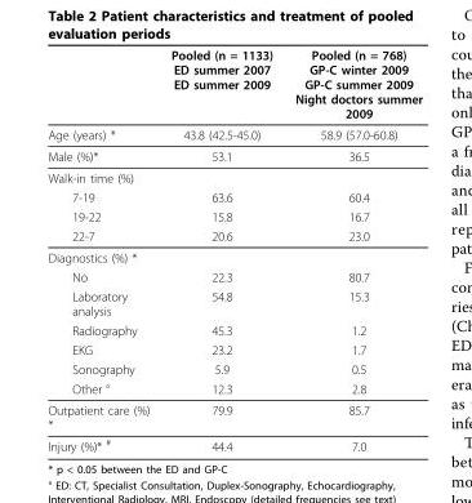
<table><thead><tr><td></td><td>Pooled (n = 1133) ED summer 2007 ED summer 2009</td><td>Pooled (n = 768) GP-C winter 2009 GP-C summer 2009 Night doctors summer 2009</td></tr></thead><tbody><tr><td>Age (years) *</td><td>43.8 (42.5-45.0)</td><td>58.9 (57.0-60.8)</td></tr><tr><td>Male (%)*</td><td>53.1</td><td>36.5</td></tr><tr><td colspan="3">Walk-in time (%)</td></tr><tr><td>7-19</td><td>63.6</td><td>60.4</td></tr><tr><td>19-22</td><td>15.8</td><td>16.7</td></tr><tr><td>22-7</td><td>20.6</td><td>23.0</td></tr><tr><td colspan="3">Diagnostics (%) *</td></tr><tr><td>No</td><td>22.3</td><td>80.7</td></tr><tr><td>Laboratory analysis</td><td>54.8</td><td>15.3</td></tr><tr><td>Radiography</td><td>45.3</td><td>1.2</td></tr><tr><td>EKG</td><td>23.2</td><td>1.7</td></tr><tr><td>Sonography</td><td>5.9</td><td>0.5</td></tr><tr><td>Other °</td><td>12.3</td><td>2.8</td></tr><tr><td>Outpatient care (%) *</td><td>79.9</td><td>85.7</td></tr><tr><td>Injury (%)* <sup>#</sup></td><td>44.4</td><td>7.0</td></tr></tbody></table>